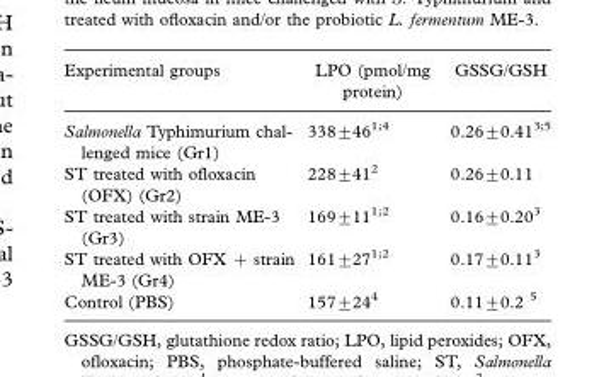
<table><thead><tr><td>Experimental groups</td><td>LPO (pmol/mg protein)</td><td>GSSG/GSH</td></tr></thead><tbody><tr><td>Salmonella Typhimurium chal- lenged mice (Gr1)</td><td>338±461;4</td><td>0.26±0.413;5</td></tr><tr><td>ST treated with ofloxacin (OFX) (Gr2)</td><td>228±412</td><td>0.26±0.11</td></tr><tr><td>ST treated with strain ME-3 (Gr3)</td><td>169±111;2</td><td>0.16±0.203</td></tr><tr><td>ST treated with OFX + strain ME-3 (Gr4)</td><td>161±271;2</td><td>0.17±0.113</td></tr><tr><td>Control (PBS)</td><td>157±244</td><td>0.11±0.2 5</td></tr></tbody></table>